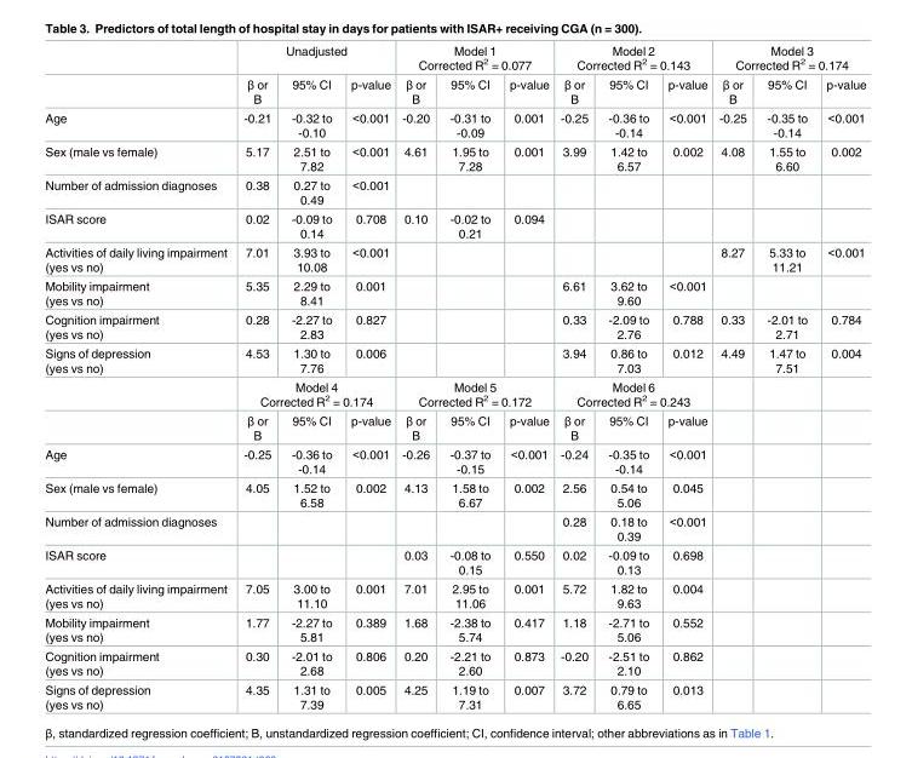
<table><thead><tr><td rowspan="2"></td><td colspan="3">Unadjusted</td><td colspan="3">Model 1 Corrected R<sup>2</sup> = 0.077</td><td colspan="3">Model 2 Corrected R<sup>2</sup> = 0.143</td><td colspan="3">Model 3 Corrected R<sup>2</sup> = 0.174</td></tr><tr><td>β or B</td><td>95% CI</td><td>p-value</td><td>β or B</td><td>95% CI</td><td>p-value</td><td>β or B</td><td>95% CI</td><td>p-value</td><td>β or B</td><td>95% CI</td><td>p-value</td></tr></thead><tbody><tr><td>Age</td><td>-0.21</td><td>-0.32 to -0.10</td><td>&lt;0.001</td><td>-0.20</td><td>-0.31 to -0.09</td><td>0.001</td><td>-0.25</td><td>-0.36 to -0.14</td><td>&lt;0.001</td><td>-0.25</td><td>-0.35 to -0.14</td><td>&lt;0.001</td></tr><tr><td>Sex (male vs female)</td><td>5.17</td><td>2.51 to 7.82</td><td>&lt;0.001</td><td>4.61</td><td>1.95 to 7.28</td><td>0.001</td><td>3.99</td><td>1.42 to 6.57</td><td>0.002</td><td>4.08</td><td>1.55 to 6.60</td><td>0.002</td></tr><tr><td>Number of admission diagnoses</td><td>0.38</td><td>0.27 to 0.49</td><td>&lt;0.001</td><td></td><td></td><td></td><td></td><td></td><td></td><td></td><td></td><td></td></tr><tr><td>ISAR score</td><td>0.02</td><td>-0.09 to 0.14</td><td>0.708</td><td>0.10</td><td>-0.02 to 0.21</td><td>0.094</td><td></td><td></td><td></td><td></td><td></td><td></td></tr><tr><td>Activities of daily living impairment (yes vs no)</td><td>7.01</td><td>3.93 to 10.08</td><td>&lt;0.001</td><td></td><td></td><td></td><td></td><td></td><td></td><td>8.27</td><td>5.33 to 11.21</td><td>&lt;0.001</td></tr><tr><td>Mobility impairment (yes vs no)</td><td>5.35</td><td>2.29 to 8.41</td><td>0.001</td><td></td><td></td><td></td><td>6.61</td><td>3.62 to 9.60</td><td>&lt;0.001</td><td></td><td></td><td></td></tr><tr><td>Cognition impairment (yes vs no)</td><td>0.28</td><td>-2.27 to 2.83</td><td>0.827</td><td></td><td></td><td></td><td>0.33</td><td>-2.09 to 2.76</td><td>0.788</td><td>0.33</td><td>-2.01 to 2.71</td><td>0.784</td></tr><tr><td rowspan="3">Signs of depression (yes vs no)</td><td>4.53</td><td>1.30 to 7.76</td><td>0.006</td><td></td><td></td><td></td><td>3.94</td><td>0.86 to 7.03</td><td>0.012</td><td>4.49</td><td>1.47 to 7.51</td><td>0.004</td></tr><tr><td colspan="3">Model 4 Corrected R<sup>2</sup> = 0.174</td><td colspan="3">Model 5 Corrected R<sup>2</sup> = 0.172</td><td colspan="3">Model 6 Corrected R<sup>2</sup> = 0.243</td><td></td><td></td><td></td></tr><tr><td>β or B</td><td>95% CI</td><td>p-value</td><td>β or B</td><td>95% CI</td><td>p-value</td><td>β or B</td><td>95% CI</td><td>p-value</td><td></td><td></td><td></td></tr><tr><td>Age</td><td>-0.25</td><td>-0.36 to -0.14</td><td>&lt;0.001</td><td>-0.26</td><td>-0.37 to -0.15</td><td>&lt;0.001</td><td>-0.24</td><td>-0.35 to -0.14</td><td>&lt;0.001</td><td></td><td></td><td></td></tr><tr><td>Sex (male vs female)</td><td>4.05</td><td>1.52 to 6.58</td><td>0.002</td><td>4.13</td><td>1.58 to 6.67</td><td>0.002</td><td>2.56</td><td>0.54 to 5.06</td><td>0.045</td><td></td><td></td><td></td></tr><tr><td>Number of admission diagnoses</td><td></td><td></td><td></td><td></td><td></td><td></td><td>0.28</td><td>0.18 to 0.39</td><td>&lt;0.001</td><td></td><td></td><td></td></tr><tr><td>ISAR score</td><td></td><td></td><td></td><td>0.03</td><td>-0.08 to 0.15</td><td>0.550</td><td>0.02</td><td>-0.09 to 0.13</td><td>0.698</td><td></td><td></td><td></td></tr><tr><td>Activities of daily living impairment (yes vs no)</td><td>7.05</td><td>3.00 to 11.10</td><td>0.001</td><td>7.01</td><td>2.95 to 11.06</td><td>0.001</td><td>5.72</td><td>1.82 to 9.63</td><td>0.004</td><td></td><td></td><td></td></tr><tr><td>Mobility impairment (yes vs no)</td><td>1.77</td><td>-2.27 to 5.81</td><td>0.389</td><td>1.68</td><td>-2.38 to 5.74</td><td>0.417</td><td>1.18</td><td>-2.71 to 5.06</td><td>0.552</td><td></td><td></td><td></td></tr><tr><td>Cognition impairment (yes vs no)</td><td>0.30</td><td>-2.01 to 2.68</td><td>0.806</td><td>0.20</td><td>-2.21 to 2.60</td><td>0.873</td><td>-0.20</td><td>-2.51 to 2.10</td><td>0.862</td><td></td><td></td><td></td></tr><tr><td>Signs of depression (yes vs no)</td><td>4.35</td><td>1.31 to 7.39</td><td>0.005</td><td>4.25</td><td>1.19 to 7.31</td><td>0.007</td><td>3.72</td><td>0.79 to 6.65</td><td>0.013</td><td></td><td></td><td></td></tr></tbody></table>